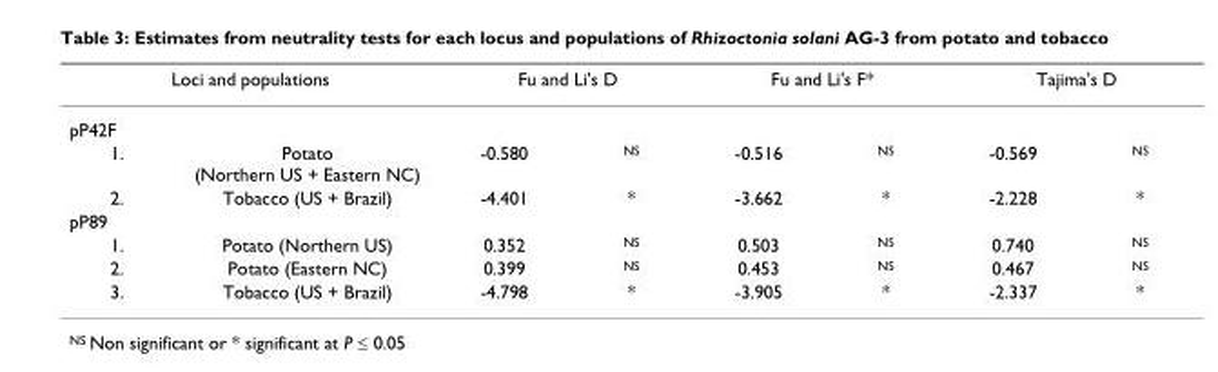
<table><thead><tr><td rowspan="2" colspan="2">Loci and populations pP42F</td><td colspan="2">Fu and Li&#x27;s D</td><td colspan="2">Fu and Li&#x27;s F*</td><td colspan="2">Tajima&#x27;s D</td></tr><tr><td rowspan="2">-0.580</td><td rowspan="2"><sup>NS</sup></td><td rowspan="2">-0.516</td><td rowspan="2"><sup>NS</sup></td><td rowspan="2">-0.569</td><td rowspan="2"><sup>NS</sup></td></tr><tr><td>1.</td><td>Potato (Northern US + Eastern NC)</td></tr></thead><tbody><tr><td>2.</td><td>Tobacco (US + Brazil)</td><td>-4.401</td><td>*</td><td>-3.662</td><td>*</td><td>-2.228</td><td>*</td></tr><tr><td colspan="8">pP89</td></tr><tr><td>1.</td><td>Potato (Northern US)</td><td>0.352</td><td><sup>NS</sup></td><td>0.503</td><td><sup>NS</sup></td><td>0.740</td><td><sup>NS</sup></td></tr><tr><td>2.</td><td>Potato (Eastern NC)</td><td>0.399</td><td><sup>NS</sup></td><td>0.453</td><td><sup>NS</sup></td><td>0.467</td><td><sup>NS</sup></td></tr><tr><td>3.</td><td>Tobacco (US + Brazil)</td><td>-4.798</td><td>*</td><td>-3.905</td><td>*</td><td>-2.337</td><td>*</td></tr></tbody></table>